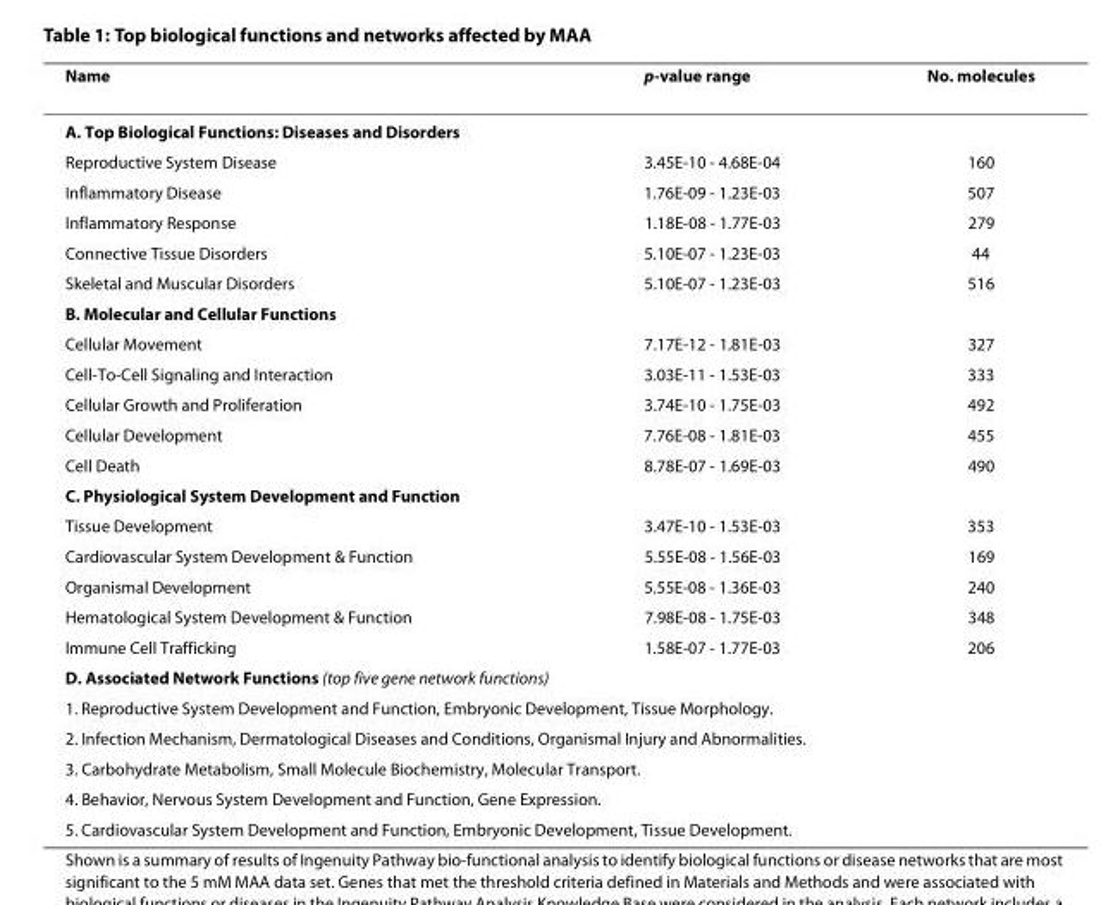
<table><thead><tr><td>Name</td><td>p-value range</td><td>No. molecules</td></tr></thead><tbody><tr><td colspan="3">A. Top Biological Functions: Diseases and Disorders</td></tr><tr><td>Reproductive System Disease</td><td>3.45E-10 - 4.68E-04</td><td>160</td></tr><tr><td>Inflammatory Disease</td><td>1.76E-09 - 1.23E-03</td><td>507</td></tr><tr><td>Inflammatory Response</td><td>1.18E-08 - 1.77E-03</td><td>279</td></tr><tr><td>Connective Tissue Disorders</td><td>5.10E-07 - 1.23E-03</td><td>44</td></tr><tr><td>Skeletal and Muscular Disorders</td><td>5.10E-07 - 1.23E-03</td><td>516</td></tr><tr><td colspan="3">B. Molecular and Cellular Functions</td></tr><tr><td>Cellular Movement</td><td>7.17E-12 - 1.81E-03</td><td>327</td></tr><tr><td>Cell-To-Cell Signaling and Interaction</td><td>3.03E-11 - 1.53E-03</td><td>333</td></tr><tr><td>Cellular Growth and Proliferation</td><td>3.74E-10 - 1.75E-03</td><td>492</td></tr><tr><td>Cellular Development</td><td>7.76E-08 - 1.81E-03</td><td>455</td></tr><tr><td>Cell Death</td><td>8.78E-07 - 1.69E-03</td><td>490</td></tr><tr><td colspan="3">C. Physiological System Development and Function</td></tr><tr><td>Tissue Development</td><td>3.47E-10 - 1.53E-03</td><td>353</td></tr><tr><td>Cardiovascular System Development &amp; Function</td><td>5.55E-08 - 1.56E-03</td><td>169</td></tr><tr><td>Organismal Development</td><td>5.55E-08 - 1.36E-03</td><td>240</td></tr><tr><td>Hematological System Development &amp; Function</td><td>7.98E-08 - 1.75E-03</td><td>348</td></tr><tr><td>Immune Cell Trafficking</td><td>1.58E-07 - 1.77E-03</td><td>206</td></tr><tr><td colspan="3">D. Associated Network Functions (top five gene network functions)</td></tr><tr><td colspan="3">1. Reproductive System Development and Function, Embryonic Development, Tissue Morphology.</td></tr><tr><td colspan="3">2. Infection Mechanism, Dermatological Diseases and Conditions, Organismal Injury and Abnormalities.</td></tr><tr><td colspan="3">3. Carbohydrate Metabolism, Small Molecule Biochemistry, Molecular Transport.</td></tr><tr><td colspan="3">4. Behavior, Nervous System Development and Function, Gene Expression.</td></tr><tr><td colspan="3">5. Cardiovascular System Development and Function, Embryonic Development, Tissue Development.</td></tr></tbody></table>